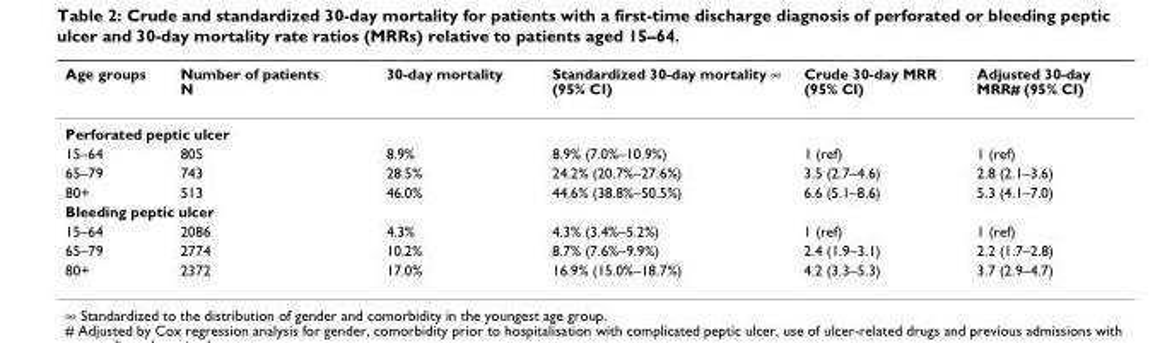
<table><thead><tr><td>Age groups</td><td>Number of patients N</td><td>30-day mortality</td><td>Standardized 30-day mortality ∞ (95% CI)</td><td>Crude 30-day MRR (95% CI)</td><td>Adjusted 30-day MRR# (95% CI)</td></tr></thead><tbody><tr><td colspan="6">Perforated peptic ulcer</td></tr><tr><td>15–64</td><td>805</td><td>8.9%</td><td>8.9% (7.0%–10.9%)</td><td>1 (ref)</td><td>1 (ref)</td></tr><tr><td>65–79</td><td>743</td><td>28.5%</td><td>24.2% (20.7%–27.6%)</td><td>3.5 (2.7–4.6)</td><td>2.8 (2.1–3.6)</td></tr><tr><td>80+</td><td>513</td><td>46.0%</td><td>44.6% (38.8%–50.5%)</td><td>6.6 (5.1–8.6)</td><td>5.3 (4.1–7.0)</td></tr><tr><td colspan="6">Bleeding peptic ulcer</td></tr><tr><td>15–64</td><td>2086</td><td>4.3%</td><td>4.3% (3.4%–5.2%)</td><td>1 (ref)</td><td>1 (ref)</td></tr><tr><td>65–79</td><td>2774</td><td>10.2%</td><td>8.7% (7.6%–9.9%)</td><td>2.4 (1.9–3.1)</td><td>2.2 (1.7–2.8)</td></tr><tr><td>80+</td><td>2372</td><td>17.0%</td><td>16.9% (15.0%–18.7%)</td><td>4.2 (3.3–5.3)</td><td>3.7 (2.9–4.7)</td></tr></tbody></table>